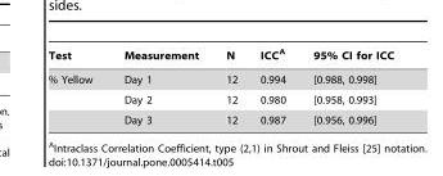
<table><thead><tr><td>Test</td><td>Measurement</td><td>N</td><td>ICC<sup>A</sup></td><td>95% CI for ICC</td></tr></thead><tbody><tr><td rowspan="3">% Yellow</td><td>Day 1</td><td>12</td><td>0.994</td><td>[0.988, 0.998]</td></tr><tr><td>Day 2</td><td>12</td><td>0.980</td><td>[0.958, 0.993]</td></tr><tr><td>Day 3</td><td>12</td><td>0.987</td><td>[0.956, 0.996]</td></tr></tbody></table>